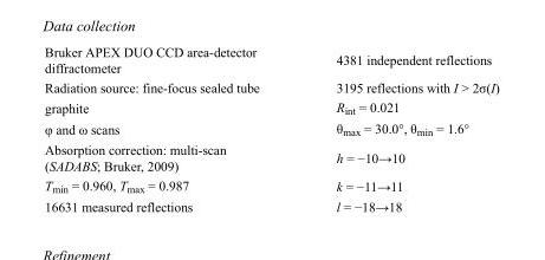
<table><tbody><tr><td>Bruker APEX DUO CCD area-detector diffractometer</td><td>4381 independent reflections</td></tr><tr><td>Radiation source: fine-focus sealed tube</td><td>3195 reflections with I &gt; 2σ(I)</td></tr><tr><td>graphite</td><td>R<sub>int</sub> = 0.021</td></tr><tr><td>φ and ω scans</td><td>θ<sub>max</sub> = 30.0°, θ<sub>min</sub> = 1.6°</td></tr><tr><td>Absorption correction: multi-scan (SADABS; Bruker, 2009)</td><td>h = −10→10</td></tr><tr><td>T<sub>min</sub> = 0.960, T<sub>max</sub> = 0.987</td><td>k = −11→11</td></tr><tr><td>16631 measured reflections</td><td>l = −18→18</td></tr></tbody></table>